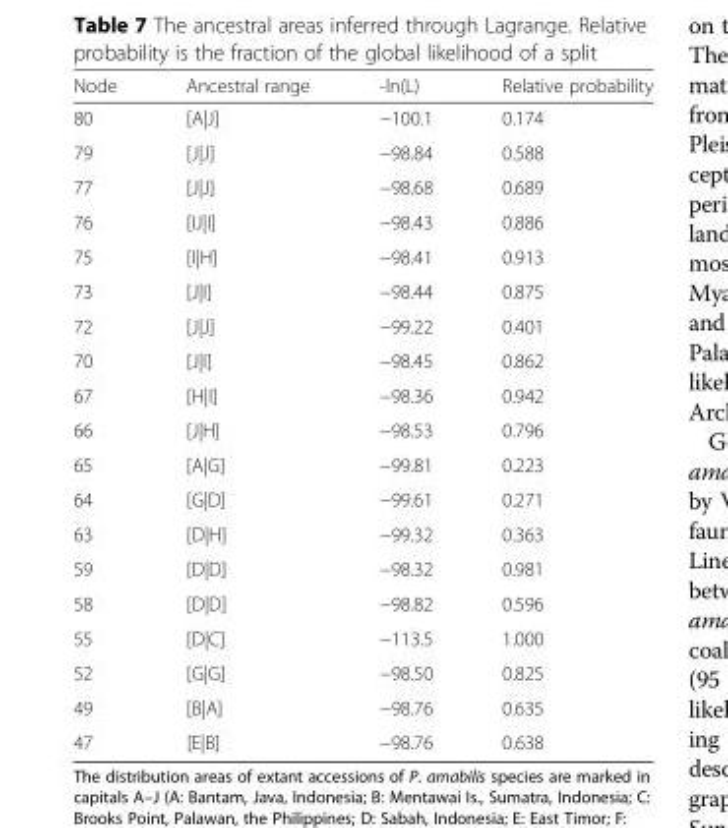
<table><thead><tr><td>Node</td><td>Ancestral range</td><td>-ln(L)</td><td>Relative probability</td></tr></thead><tbody><tr><td>80</td><td>[A|J]</td><td>−100.1</td><td>0.174</td></tr><tr><td>79</td><td>[J|J]</td><td>−98.84</td><td>0.588</td></tr><tr><td>77</td><td>[J|J]</td><td>−98.68</td><td>0.689</td></tr><tr><td>76</td><td>[IJ|I]</td><td>−98.43</td><td>0.886</td></tr><tr><td>75</td><td>[I|H]</td><td>−98.41</td><td>0.913</td></tr><tr><td>73</td><td>[J|I]</td><td>−98.44</td><td>0.875</td></tr><tr><td>72</td><td>[J|J]</td><td>−99.22</td><td>0.401</td></tr><tr><td>70</td><td>[J|I]</td><td>−98.45</td><td>0.862</td></tr><tr><td>67</td><td>[H|I]</td><td>−98.36</td><td>0.942</td></tr><tr><td>66</td><td>[J|H]</td><td>−98.53</td><td>0.796</td></tr><tr><td>65</td><td>[A|G]</td><td>−99.81</td><td>0.223</td></tr><tr><td>64</td><td>[G|D]</td><td>−99.61</td><td>0.271</td></tr><tr><td>63</td><td>[D|H]</td><td>−99.32</td><td>0.363</td></tr><tr><td>59</td><td>[D|D]</td><td>−98.32</td><td>0.981</td></tr><tr><td>58</td><td>[D|D]</td><td>−98.82</td><td>0.596</td></tr><tr><td>55</td><td>[D|C]</td><td>−113.5</td><td>1.000</td></tr><tr><td>52</td><td>[G|G]</td><td>−98.50</td><td>0.825</td></tr><tr><td>49</td><td>[B|A]</td><td>−98.76</td><td>0.635</td></tr><tr><td>47</td><td>[E|B]</td><td>−98.76</td><td>0.638</td></tr></tbody></table>